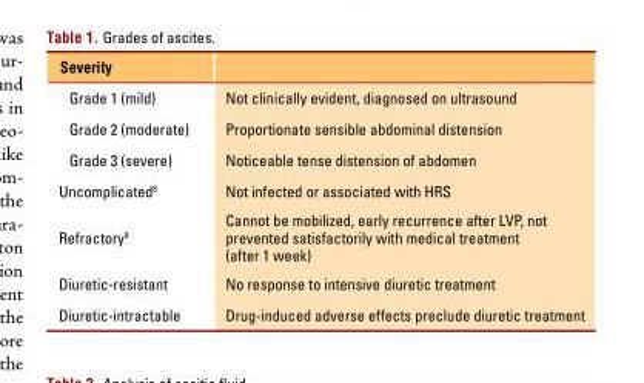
<table><thead><tr><td>Severity</td><td></td></tr></thead><tbody><tr><td>Grade 1 (mild)</td><td>Not clinically evident, diagnosed on ultrasound</td></tr><tr><td>Grade 2 (moderate)</td><td>Proportionate sensible abdominal distension</td></tr><tr><td>Grade 3 (severe)</td><td>Noticeable tense distension of abdomen</td></tr><tr><td>Uncomplicated<sup>8</sup></td><td>Not infected or associated with HRS</td></tr><tr><td>Refractory<sup>9</sup></td><td>Cannot be mobilized, early recurrence after LVP, not prevented satisfactorily with medical treatment (after 1 week)</td></tr><tr><td>Diuretic-resistant</td><td>No response to intensive diuretic treatment</td></tr><tr><td>Diuretic-intractable</td><td>Drug-induced adverse effects preclude diuretic treatment</td></tr></tbody></table>